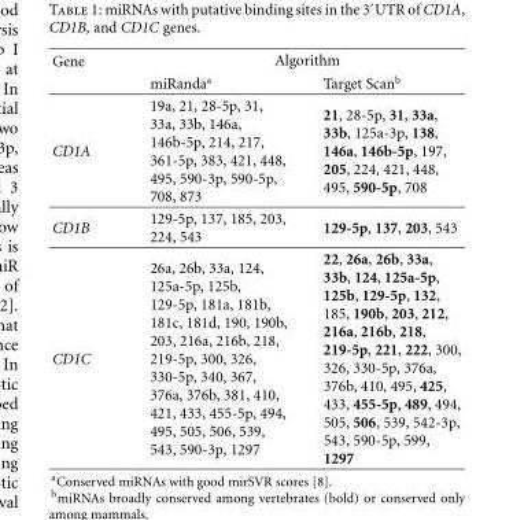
<table><thead><tr><td rowspan="2">Gene</td><td colspan="2">Algorithm</td></tr><tr><td>miRanda<sup>a</sup></td><td>Target Scan<sup>b</sup></td></tr></thead><tbody><tr><td>CD1A</td><td>19a, 21, 28-5p, 31, 33a, 33b, 146a, 146b-5p, 214, 217, 361-5p, 383, 421, 448, 495, 590-3p, 590-5p, 708, 873</td><td>21, 28-5p, 31, 33a, 33b, 125a-3p, 138, 146a, 146b-5p, 197, 205, 224, 421, 448, 495, 590-5p, 708</td></tr><tr><td>CD1B</td><td>129-5p, 137, 185, 203, 224, 543</td><td>129-5p, 137, 203, 543</td></tr><tr><td>CD1C</td><td>26a, 26b, 33a, 124, 125a-5p, 125b, 129-5p, 181a, 181b, 181c, 181d, 190, 190b, 203, 216a, 216b, 218, 219-5p, 300, 326, 330-5p, 340, 367, 376a, 376b, 381, 410, 421, 433, 455-5p, 494, 495, 505, 506, 539, 543, 590-3p, 1297</td><td>22, 26a, 26b, 33a, 33b, 124, 125a-5p, 125b, 129-5p, 132, 185, 190b, 203, 212, 216a, 216b, 218, 219-5p, 221, 222, 300, 326, 330-5p, 376a, 376b, 410, 495, 425, 433, 455-5p, 489, 494, 505, 506, 539, 542-3p, 543, 590-5p, 599, 1297</td></tr></tbody></table>